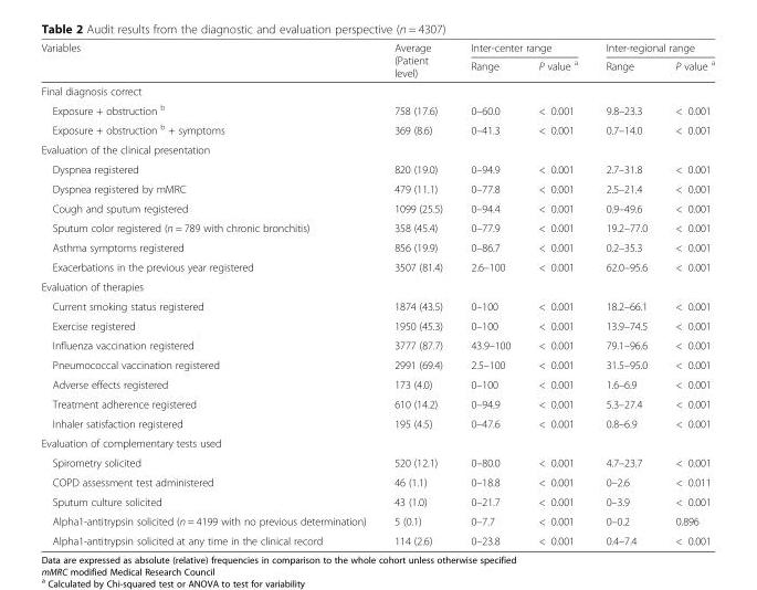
<table><thead><tr><td rowspan="2">Variables</td><td rowspan="2">Average (Patient level)</td><td colspan="2">Inter-center range</td><td colspan="2">Inter-regional range</td></tr><tr><td>Range</td><td>P value <sup>a</sup></td><td>Range</td><td>P value <sup>a</sup></td></tr></thead><tbody><tr><td colspan="6">Final diagnosis correct</td></tr><tr><td>Exposure + obstruction <sup>b</sup></td><td>758 (17.6)</td><td>0–60.0</td><td>&lt; 0.001</td><td>9.8–23.3</td><td>&lt; 0.001</td></tr><tr><td>Exposure + obstruction <sup>b</sup> + symptoms</td><td>369 (8.6)</td><td>0–41.3</td><td>&lt; 0.001</td><td>0.7–14.0</td><td>&lt; 0.001</td></tr><tr><td colspan="6">Evaluation of the clinical presentation</td></tr><tr><td>Dyspnea registered</td><td>820 (19.0)</td><td>0–94.9</td><td>&lt; 0.001</td><td>2.7–31.8</td><td>&lt; 0.001</td></tr><tr><td>Dyspnea registered by mMRC</td><td>479 (11.1)</td><td>0–77.8</td><td>&lt; 0.001</td><td>2.5–21.4</td><td>&lt; 0.001</td></tr><tr><td>Cough and sputum registered</td><td>1099 (25.5)</td><td>0–94.4</td><td>&lt; 0.001</td><td>0.9–49.6</td><td>&lt; 0.001</td></tr><tr><td>Sputum color registered (n = 789 with chronic bronchitis)</td><td>358 (45.4)</td><td>0–77.9</td><td>&lt; 0.001</td><td>19.2–77.0</td><td>&lt; 0.001</td></tr><tr><td>Asthma symptoms registered</td><td>856 (19.9)</td><td>0–86.7</td><td>&lt; 0.001</td><td>0.2–35.3</td><td>&lt; 0.001</td></tr><tr><td>Exacerbations in the previous year registered</td><td>3507 (81.4)</td><td>2.6–100</td><td>&lt; 0.001</td><td>62.0–95.6</td><td>&lt; 0.001</td></tr><tr><td colspan="6">Evaluation of therapies</td></tr><tr><td>Current smoking status registered</td><td>1874 (43.5)</td><td>0–100</td><td>&lt; 0.001</td><td>18.2–66.1</td><td>&lt; 0.001</td></tr><tr><td>Exercise registered</td><td>1950 (45.3)</td><td>0–100</td><td>&lt; 0.001</td><td>13.9–74.5</td><td>&lt; 0.001</td></tr><tr><td>Influenza vaccination registered</td><td>3777 (87.7)</td><td>43.9–100</td><td>&lt; 0.001</td><td>79.1–96.6</td><td>&lt; 0.001</td></tr><tr><td>Pneumococcal vaccination registered</td><td>2991 (69.4)</td><td>2.5–100</td><td>&lt; 0.001</td><td>31.5–95.0</td><td>&lt; 0.001</td></tr><tr><td>Adverse effects registered</td><td>173 (4.0)</td><td>0–100</td><td>&lt; 0.001</td><td>1.6–6.9</td><td>&lt; 0.001</td></tr><tr><td>Treatment adherence registered</td><td>610 (14.2)</td><td>0–94.9</td><td>&lt; 0.001</td><td>5.3–27.4</td><td>&lt; 0.001</td></tr><tr><td>Inhaler satisfaction registered</td><td>195 (4.5)</td><td>0–47.6</td><td>&lt; 0.001</td><td>0.8–6.9</td><td>&lt; 0.001</td></tr><tr><td colspan="6">Evaluation of complementary tests used</td></tr><tr><td>Spirometry solicited</td><td>520 (12.1)</td><td>0–80.0</td><td>&lt; 0.001</td><td>4.7–23.7</td><td>&lt; 0.001</td></tr><tr><td>COPD assessment test administered</td><td>46 (1.1)</td><td>0–18.8</td><td>&lt; 0.001</td><td>0–2.6</td><td>&lt; 0.011</td></tr><tr><td>Sputum culture solicited</td><td>43 (1.0)</td><td>0–21.7</td><td>&lt; 0.001</td><td>0–3.9</td><td>&lt; 0.001</td></tr><tr><td>Alpha1-antitrypsin solicited (n = 4199 with no previous determination)</td><td>5 (0.1)</td><td>0–7.7</td><td>&lt; 0.001</td><td>0–0.2</td><td>0.896</td></tr><tr><td>Alpha1-antitrypsin solicited at any time in the clinical record</td><td>114 (2.6)</td><td>0–23.8</td><td>&lt; 0.001</td><td>0.4–7.4</td><td>&lt; 0.001</td></tr></tbody></table>